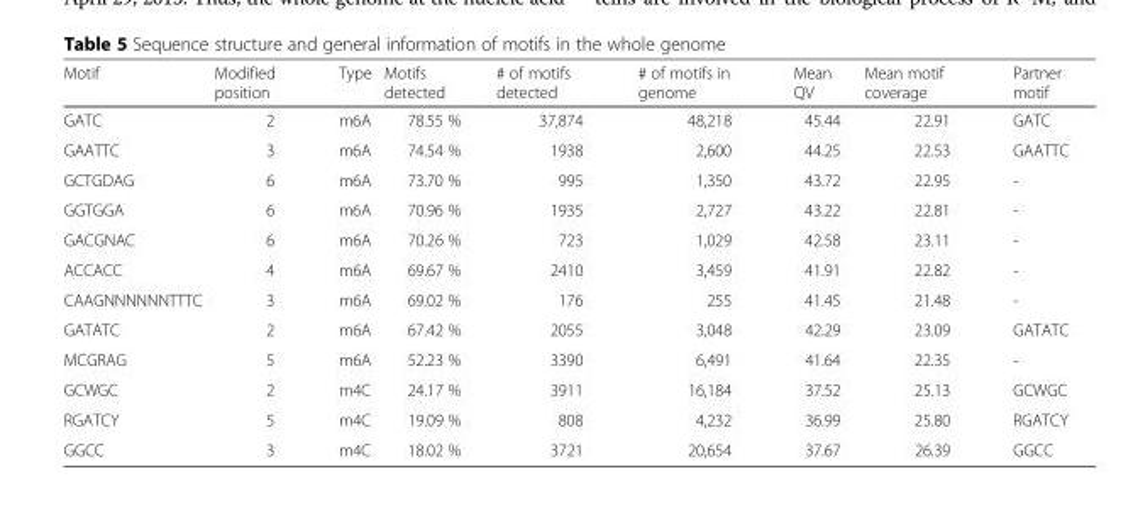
<table><thead><tr><td>Motif</td><td>Modified position</td><td>Type</td><td>Motifs detected</td><td># of motifs detected</td><td># of motifs in genome</td><td>Mean QV</td><td>Mean motif coverage</td><td>Partner motif</td></tr></thead><tbody><tr><td>GATC</td><td>2</td><td>m6A</td><td>78.55 %</td><td>37,874</td><td>48,218</td><td>45.44</td><td>22.91</td><td>GATC</td></tr><tr><td>GAATTC</td><td>3</td><td>m6A</td><td>74.54 %</td><td>1938</td><td>2,600</td><td>44.25</td><td>22.53</td><td>GAATTC</td></tr><tr><td>GCTGDAG</td><td>6</td><td>m6A</td><td>73.70 %</td><td>995</td><td>1,350</td><td>43.72</td><td>22.95</td><td>-</td></tr><tr><td>GGTGGA</td><td>6</td><td>m6A</td><td>70.96 %</td><td>1935</td><td>2,727</td><td>43.22</td><td>22.81</td><td>-</td></tr><tr><td>GACGNAC</td><td>6</td><td>m6A</td><td>70.26 %</td><td>723</td><td>1,029</td><td>42.58</td><td>23.11</td><td>-</td></tr><tr><td>ACCACC</td><td>4</td><td>m6A</td><td>69.67 %</td><td>2410</td><td>3,459</td><td>41.91</td><td>22.82</td><td>-</td></tr><tr><td>CAAGNNNNNNTTTC</td><td>3</td><td>m6A</td><td>69.02 %</td><td>176</td><td>255</td><td>41.45</td><td>21.48</td><td>-</td></tr><tr><td>GATATC</td><td>2</td><td>m6A</td><td>67.42 %</td><td>2055</td><td>3,048</td><td>42.29</td><td>23.09</td><td>GATATC</td></tr><tr><td>MCGRAG</td><td>5</td><td>m6A</td><td>52.23 %</td><td>3390</td><td>6,491</td><td>41.64</td><td>22.35</td><td>-</td></tr><tr><td>GCWGC</td><td>2</td><td>m4C</td><td>24.17 %</td><td>3911</td><td>16,184</td><td>37.52</td><td>25.13</td><td>GCWGC</td></tr><tr><td>RGATCY</td><td>5</td><td>m4C</td><td>19.09 %</td><td>808</td><td>4,232</td><td>36.99</td><td>25.80</td><td>RGATCY</td></tr><tr><td>GGCC</td><td>3</td><td>m4C</td><td>18.02 %</td><td>3721</td><td>20,654</td><td>37.67</td><td>26.39</td><td>GGCC</td></tr></tbody></table>